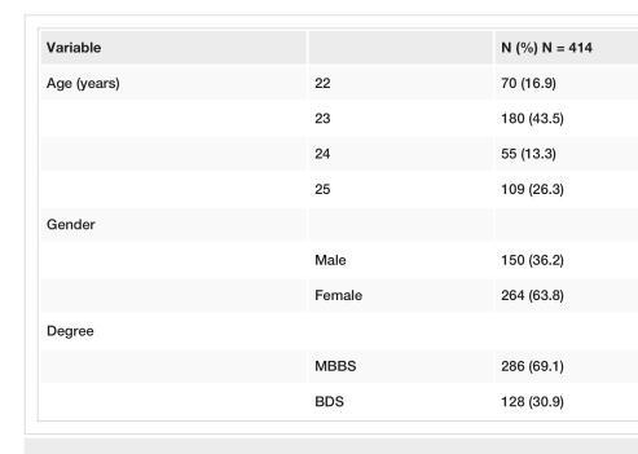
<table><tbody><tr><td>Variable</td><td></td><td>N (%) N = 414</td></tr><tr><td rowspan="4">Age (years)</td><td>22</td><td>70 (16.9)</td></tr><tr><td>23</td><td>180 (43.5)</td></tr><tr><td>24</td><td>55 (13.3)</td></tr><tr><td>25</td><td>109 (26.3)</td></tr><tr><td colspan="3">Gender</td></tr><tr><td></td><td>Male</td><td>150 (36.2)</td></tr><tr><td></td><td>Female</td><td>264 (63.8)</td></tr><tr><td colspan="3">Degree</td></tr><tr><td></td><td>MBBS</td><td>286 (69.1)</td></tr><tr><td></td><td>BDS</td><td>128 (30.9)</td></tr></tbody></table>